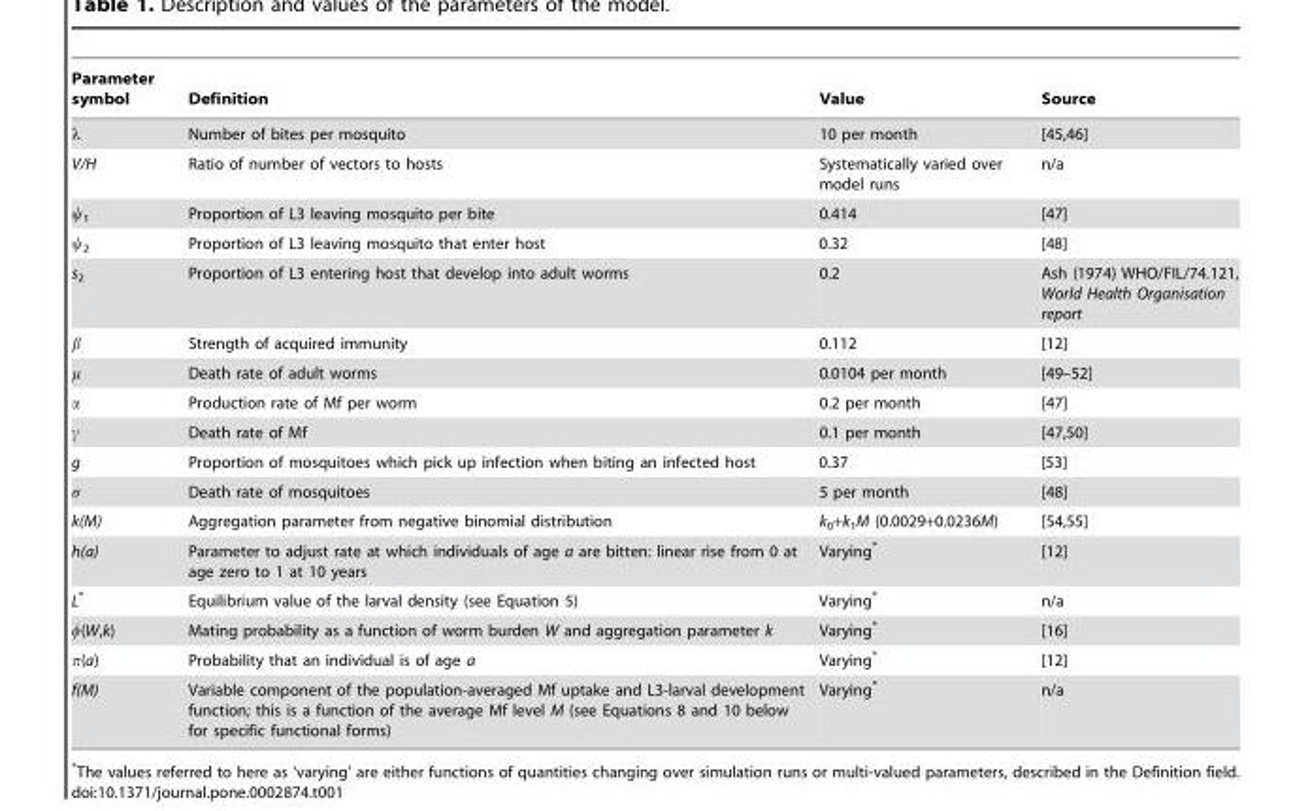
<table><thead><tr><td>Parameter symbol</td><td>Definition</td><td>Value</td><td>Source</td></tr></thead><tbody><tr><td>λ</td><td>Number of bites per mosquito</td><td>10 per month</td><td>[45,46]</td></tr><tr><td>V/H</td><td>Ratio of number of vectors to hosts</td><td>Systematically varied over model runs</td><td>n/a</td></tr><tr><td>ψ<sub>1</sub></td><td>Proportion of L3 leaving mosquito per bite</td><td>0.414</td><td>[47]</td></tr><tr><td>ψ<sub>2</sub></td><td>Proportion of L3 leaving mosquito that enter host</td><td>0.32</td><td>[48]</td></tr><tr><td>s<sub>2</sub></td><td>Proportion of L3 entering host that develop into adult worms</td><td>0.2</td><td>Ash (1974) WHO/FIL/74.121, World Health Organisation report</td></tr><tr><td>β</td><td>Strength of acquired immunity</td><td>0.112</td><td>[12]</td></tr><tr><td>μ</td><td>Death rate of adult worms</td><td>0.0104 per month</td><td>[49–52]</td></tr><tr><td>α</td><td>Production rate of Mf per worm</td><td>0.2 per month</td><td>[47]</td></tr><tr><td>γ</td><td>Death rate of Mf</td><td>0.1 per month</td><td>[47,50]</td></tr><tr><td>g</td><td>Proportion of mosquitoes which pick up infection when biting an infected host</td><td>0.37</td><td>[53]</td></tr><tr><td>σ</td><td>Death rate of mosquitoes</td><td>5 per month</td><td>[48]</td></tr><tr><td>k(M)</td><td>Aggregation parameter from negative binomial distribution</td><td>k<sub>0</sub>+k<sub>1</sub>M (0.0029+0.0236M)</td><td>[54,55]</td></tr><tr><td>h(a)</td><td>Parameter to adjust rate at which individuals of age a are bitten: linear rise from 0 at age zero to 1 at 10 years</td><td>Varying*</td><td>[12]</td></tr><tr><td>L*</td><td>Equilibrium value of the larval density (see Equation 5)</td><td>Varying*</td><td>n/a</td></tr><tr><td>φ(W,k)</td><td>Mating probability as a function of worm burden W and aggregation parameter k</td><td>Varying*</td><td>[16]</td></tr><tr><td>π(a)</td><td>Probability that an individual is of age a</td><td>Varying*</td><td>[12]</td></tr><tr><td>f(M)</td><td>Variable component of the population-averaged Mf uptake and L3-larval development function; this is a function of the average Mf level M (see Equations 8 and 10 below for specific functional forms)</td><td>Varying*</td><td>n/a</td></tr></tbody></table>